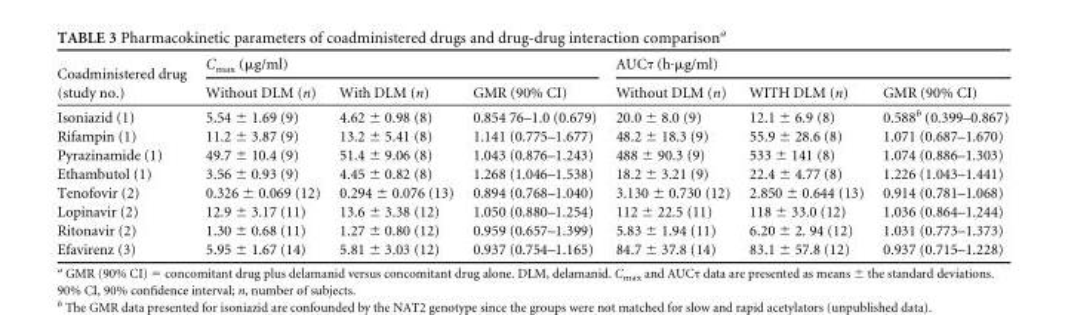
<table><thead><tr><td rowspan="2">Coadministered drug (study no.)</td><td colspan="3">C<sub>max</sub> (μg/ml)</td><td colspan="3">AUCτ (h·µg/ml)</td></tr><tr><td>Without DLM (n)</td><td>With DLM (n)</td><td>GMR (90% CI)</td><td>Without DLM (n)</td><td>WITH DLM (n)</td><td>GMR (90% CI)</td></tr></thead><tbody><tr><td>Isoniazid (1)</td><td>5.54 ± 1.69 (9)</td><td>4.62 ± 0.98 (8)</td><td>0.854 76–1.0 (0.679)</td><td>20.0 ± 8.0 (9)</td><td>12.1 ± 6.9 (8)</td><td>0.588<sup>b</sup> (0.399–0.867)</td></tr><tr><td>Rifampin (1)</td><td>11.2 ± 3.87 (9)</td><td>13.2 ± 5.41 (8)</td><td>1.141 (0.775–1.677)</td><td>48.2 ± 18.3 (9)</td><td>55.9 ± 28.6 (8)</td><td>1.071 (0.687–1.670)</td></tr><tr><td>Pyrazinamide (1)</td><td>49.7 ± 10.4 (9)</td><td>51.4 ± 9.06 (8)</td><td>1.043 (0.876–1.243)</td><td>488 ± 90.3 (9)</td><td>533 ± 141 (8)</td><td>1.074 (0.886–1.303)</td></tr><tr><td>Ethambutol (1)</td><td>3.56 ± 0.93 (9)</td><td>4.45 ± 0.82 (8)</td><td>1.268 (1.046–1.538)</td><td>18.2 ± 3.21 (9)</td><td>22.4 ± 4.77 (8)</td><td>1.226 (1.043–1.441)</td></tr><tr><td>Tenofovir (2)</td><td>0.326 ± 0.069 (12)</td><td>0.294 ± 0.076 (13)</td><td>0.894 (0.768–1.040)</td><td>3.130 ± 0.730 (12)</td><td>2.850 ± 0.644 (13)</td><td>0.914 (0.781–1.068)</td></tr><tr><td>Lopinavir (2)</td><td>12.9 ± 3.17 (11)</td><td>13.6 ± 3.38 (12)</td><td>1.050 (0.880–1.254)</td><td>112 ± 22.5 (11)</td><td>118 ± 33.0 (12)</td><td>1.036 (0.864–1.244)</td></tr><tr><td>Ritonavir (2)</td><td>1.30 ± 0.68 (11)</td><td>1.27 ± 0.80 (12)</td><td>0.959 (0.657–1.399)</td><td>5.83 ± 1.94 (11)</td><td>6.20 ± 2. 94 (12)</td><td>1.031 (0.773–1.373)</td></tr><tr><td>Efavirenz (3)</td><td>5.95 ± 1.67 (14)</td><td>5.81 ± 3.03 (12)</td><td>0.937 (0.754–1.165)</td><td>84.7 ± 37.8 (14)</td><td>83.1 ± 57.8 (12)</td><td>0.937 (0.715–1.228)</td></tr></tbody></table>